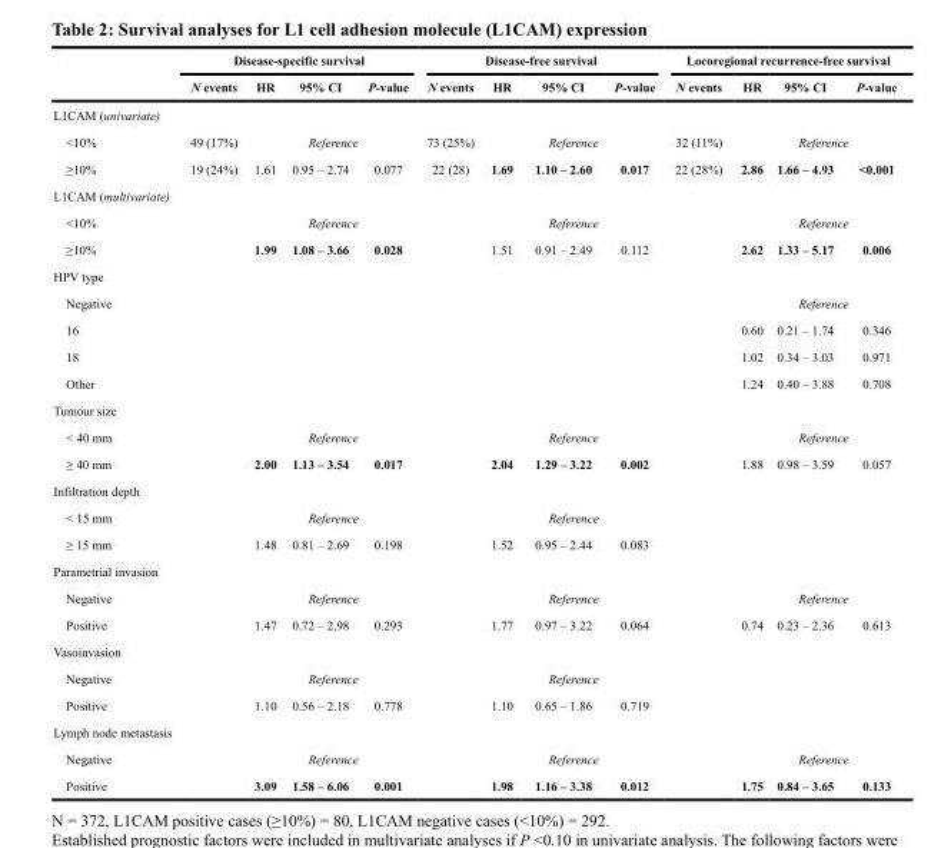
<table><thead><tr><td rowspan="2"></td><td colspan="4">Disease-specific survival</td><td colspan="4">Disease-free survival</td><td colspan="4">Locoregional recurrence-free survival</td></tr><tr><td>N events</td><td>HR</td><td>95% CI</td><td>P-value</td><td>N events</td><td>HR</td><td>95% CI</td><td>P-value</td><td>N events</td><td>HR</td><td>95% CI</td><td>P-value</td></tr></thead><tbody><tr><td colspan="13">L1CAM (univariate)</td></tr><tr><td>&lt;10%</td><td>49 (17%)</td><td colspan="3">Reference</td><td>73 (25%)</td><td colspan="3">Reference</td><td>32 (11%)</td><td colspan="3">Reference</td></tr><tr><td>≥10%</td><td>19 (24%)</td><td>1.61</td><td>0.95 – 2.74</td><td>0.077</td><td>22 (28)</td><td>1.69</td><td>1.10 – 2.60</td><td>0.017</td><td>22 (28%)</td><td>2.86</td><td>1.66 – 4.93</td><td>&lt;0.001</td></tr><tr><td colspan="13">L1CAM (multivariate)</td></tr><tr><td>&lt;10%</td><td></td><td colspan="3">Reference</td><td></td><td colspan="3">Reference</td><td></td><td colspan="3">Reference</td></tr><tr><td>≥10%</td><td></td><td>1.99</td><td>1.08 – 3.66</td><td>0.028</td><td></td><td>1.51</td><td>0.91 – 2.49</td><td>0.112</td><td></td><td>2.62</td><td>1.33 – 5.17</td><td>0.006</td></tr><tr><td colspan="13">HPV type</td></tr><tr><td>Negative</td><td></td><td></td><td></td><td></td><td></td><td></td><td></td><td></td><td></td><td colspan="3">Reference</td></tr><tr><td>16</td><td></td><td></td><td></td><td></td><td></td><td></td><td></td><td></td><td></td><td>0.60</td><td>0.21 – 1.74</td><td>0.346</td></tr><tr><td>18</td><td></td><td></td><td></td><td></td><td></td><td></td><td></td><td></td><td></td><td>1.02</td><td>0.34 – 3.03</td><td>0.971</td></tr><tr><td>Other</td><td></td><td></td><td></td><td></td><td></td><td></td><td></td><td></td><td></td><td>1.24</td><td>0.40 – 3.88</td><td>0.708</td></tr><tr><td colspan="13">Tumour size</td></tr><tr><td>&lt; 40 mm</td><td></td><td colspan="3">Reference</td><td></td><td colspan="3">Reference</td><td></td><td colspan="3">Reference</td></tr><tr><td>≥ 40 mm</td><td></td><td>2.00</td><td>1.13 – 3.54</td><td>0.017</td><td></td><td>2.04</td><td>1.29 – 3.22</td><td>0.002</td><td></td><td>1.88</td><td>0.98 – 3.59</td><td>0.057</td></tr><tr><td colspan="13">Infiltration depth</td></tr><tr><td>&lt; 15 mm</td><td></td><td colspan="3">Reference</td><td></td><td colspan="3">Reference</td><td></td><td></td><td></td><td></td></tr><tr><td>≥ 15 mm</td><td></td><td>1.48</td><td>0.81 – 2.69</td><td>0.198</td><td></td><td>1.52</td><td>0.95 – 2.44</td><td>0.083</td><td></td><td></td><td></td><td></td></tr><tr><td colspan="13">Parametrial invasion</td></tr><tr><td>Negative</td><td></td><td colspan="3">Reference</td><td></td><td colspan="3">Reference</td><td></td><td colspan="3">Reference</td></tr><tr><td>Positive</td><td></td><td>1.47</td><td>0.72 – 2.98</td><td>0.293</td><td></td><td>1.77</td><td>0.97 – 3.22</td><td>0.064</td><td></td><td>0.74</td><td>0.23 – 2.36</td><td>0.613</td></tr><tr><td colspan="13">Vasoinvasion</td></tr><tr><td>Negative</td><td></td><td colspan="3">Reference</td><td></td><td colspan="3">Reference</td><td></td><td></td><td></td><td></td></tr><tr><td>Positive</td><td></td><td>1.10</td><td>0.56 – 2.18</td><td>0.778</td><td></td><td>1.10</td><td>0.65 – 1.86</td><td>0.719</td><td></td><td></td><td></td><td></td></tr><tr><td colspan="13">Lymph node metastasis</td></tr><tr><td>Negative</td><td></td><td colspan="3">Reference</td><td></td><td colspan="3">Reference</td><td></td><td colspan="3">Reference</td></tr><tr><td>Positive</td><td></td><td>3.09</td><td>1.58 – 6.06</td><td>0.001</td><td></td><td>1.98</td><td>1.16 – 3.38</td><td>0.012</td><td></td><td>1.75</td><td>0.84 – 3.65</td><td>0.133</td></tr></tbody></table>